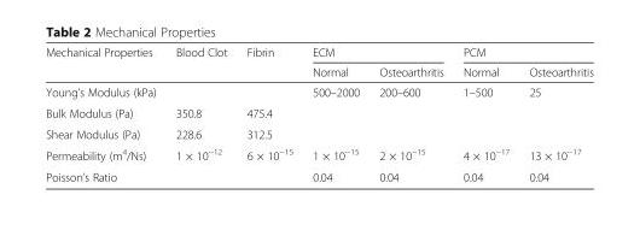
<table><thead><tr><td rowspan="2">Mechanical Properties</td><td rowspan="2">Blood Clot</td><td rowspan="2">Fibrin</td><td colspan="2">ECM</td><td colspan="2">PCM</td></tr><tr><td>Normal</td><td>Osteoarthritis</td><td>Normal</td><td>Osteoarthritis</td></tr></thead><tbody><tr><td>Young’s Modulus (kPa)</td><td></td><td></td><td>500–2000</td><td>200–600</td><td>1–500</td><td>25</td></tr><tr><td>Bulk Modulus (Pa)</td><td>350.8</td><td>475.4</td><td></td><td></td><td></td><td></td></tr><tr><td>Shear Modulus (Pa)</td><td>228.6</td><td>312.5</td><td></td><td></td><td></td><td></td></tr><tr><td>Permeability (m<sup>4</sup>/Ns)</td><td>1 × 10<sup>−12</sup></td><td>6 × 10<sup>−15</sup></td><td>1 × 10<sup>−15</sup></td><td>2 × 10<sup>−15</sup></td><td>4 × 10<sup>−17</sup></td><td>13 × 10<sup>−17</sup></td></tr><tr><td>Poisson’s Ratio</td><td></td><td></td><td>0.04</td><td>0.04</td><td>0.04</td><td>0.04</td></tr></tbody></table>